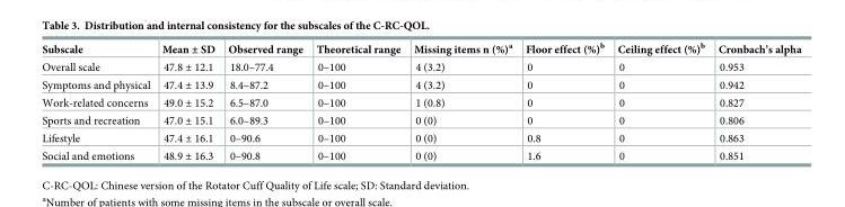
<table><thead><tr><td>Subscale</td><td>Mean ± SD</td><td>Observed range</td><td>Theoretical range</td><td>Missing items n (%)<sup>a</sup></td><td>Floor effect (%)<sup>b</sup></td><td>Ceiling effect (%)<sup>b</sup></td><td>Cronbach’s alpha</td></tr></thead><tbody><tr><td>Overall scale</td><td>47.8 ± 12.1</td><td>18.0–77.4</td><td>0–100</td><td>4 (3.2)</td><td>0</td><td>0</td><td>0.953</td></tr><tr><td>Symptoms and physical</td><td>47.4 ± 13.9</td><td>8.4–87.2</td><td>0–100</td><td>4 (3.2)</td><td>0</td><td>0</td><td>0.942</td></tr><tr><td>Work-related concerns</td><td>49.0 ± 15.2</td><td>6.5–87.0</td><td>0–100</td><td>1 (0.8)</td><td>0</td><td>0</td><td>0.827</td></tr><tr><td>Sports and recreation</td><td>47.0 ± 15.1</td><td>6.0–89.3</td><td>0–100</td><td>0 (0)</td><td>0</td><td>0</td><td>0.806</td></tr><tr><td>Lifestyle</td><td>47.4 ± 16.1</td><td>0–90.6</td><td>0–100</td><td>0 (0)</td><td>0.8</td><td>0</td><td>0.863</td></tr><tr><td>Social and emotions</td><td>48.9 ± 16.3</td><td>0–90.8</td><td>0–100</td><td>0 (0)</td><td>1.6</td><td>0</td><td>0.851</td></tr></tbody></table>